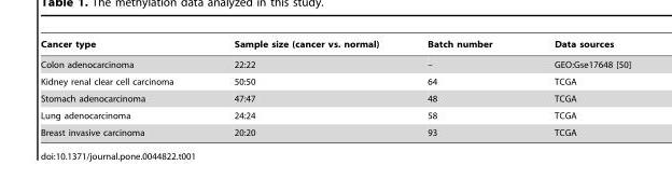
<table><thead><tr><td>Cancer type</td><td>Sample size (cancer vs. normal)</td><td>Batch number</td><td>Data sources</td></tr></thead><tbody><tr><td>Colon adenocarcinoma</td><td>22:22</td><td>–</td><td>GEO:Gse17648 [50]</td></tr><tr><td>Kidney renal clear cell carcinoma</td><td>50:50</td><td>64</td><td>TCGA</td></tr><tr><td>Stomach adenocarcinoma</td><td>47:47</td><td>48</td><td>TCGA</td></tr><tr><td>Lung adenocarcinoma</td><td>24:24</td><td>58</td><td>TCGA</td></tr><tr><td>Breast invasive carcinoma</td><td>20:20</td><td>93</td><td>TCGA</td></tr></tbody></table>